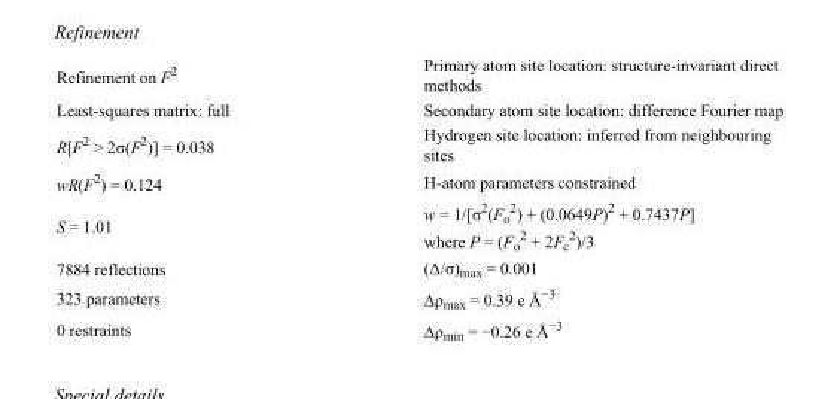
<table><tbody><tr><td>Refinement on F<sup>2</sup></td><td>Primary atom site location: structure-invariant direct methods</td></tr><tr><td>Least-squares matrix: full</td><td>Secondary atom site location: difference Fourier map</td></tr><tr><td>R[F<sup>2</sup> &gt; 2σ(F<sup>2</sup>)] = 0.038</td><td>Hydrogen site location: inferred from neighbouring sites</td></tr><tr><td>wR(F<sup>2</sup>) = 0.124</td><td>H-atom parameters constrained</td></tr><tr><td>S = 1.01</td><td>w = 1/[σ<sup>2</sup>(F<sub>o</sub> <sup>2</sup>) + (0.0649P)<sup>2</sup> + 0.7437P] where P = (F<sub>o</sub> <sup>2</sup> + 2F<sub>c</sub> <sup>2</sup>)/3</td></tr><tr><td>7884 reflections</td><td>(Δ/σ)<sub>max</sub> = 0.001</td></tr><tr><td>323 parameters</td><td>Δρ<sub>max</sub> = 0.39 e Å<sup>−3</sup></td></tr><tr><td>0 restraints</td><td>Δρ<sub>min</sub> = −0.26 e Å<sup>−3</sup></td></tr></tbody></table>